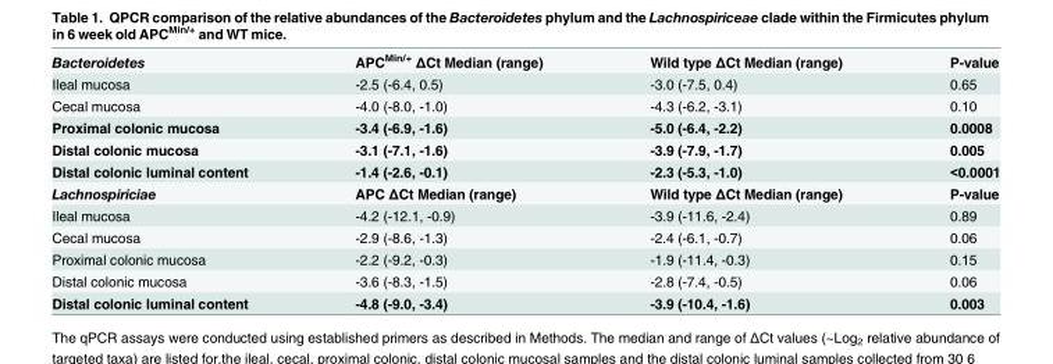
<table><tbody><tr><td>Bacteroidetes</td><td>APC<sup>Min/+</sup> ΔCt Median (range)</td><td>Wild type ΔCt Median (range)</td><td>P-value</td></tr><tr><td>Ileal mucosa</td><td>-2.5 (-6.4, 0.5)</td><td>-3.0 (-7.5, 0.4)</td><td>0.65</td></tr><tr><td>Cecal mucosa</td><td>-4.0 (-8.0, -1.0)</td><td>-4.3 (-6.2, -3.1)</td><td>0.10</td></tr><tr><td>Proximal colonic mucosa</td><td>-3.4 (-6.9, -1.6)</td><td>-5.0 (-6.4, -2.2)</td><td>0.0008</td></tr><tr><td>Distal colonic mucosa</td><td>-3.1 (-7.1, -1.6)</td><td>-3.9 (-7.9, -1.7)</td><td>0.005</td></tr><tr><td>Distal colonic luminal content</td><td>-1.4 (-2.6, -0.1)</td><td>-2.3 (-5.3, -1.0)</td><td>&lt;0.0001</td></tr><tr><td>Lachnospiriciae</td><td>APC ΔCt Median (range)</td><td>Wild type ΔCt Median (range)</td><td>P-value</td></tr><tr><td>Ileal mucosa</td><td>-4.2 (-12.1, -0.9)</td><td>-3.9 (-11.6, -2.4)</td><td>0.89</td></tr><tr><td>Cecal mucosa</td><td>-2.9 (-8.6, -1.3)</td><td>-2.4 (-6.1, -0.7)</td><td>0.06</td></tr><tr><td>Proximal colonic mucosa</td><td>-2.2 (-9.2, -0.3)</td><td>-1.9 (-11.4, -0.3)</td><td>0.15</td></tr><tr><td>Distal colonic mucosa</td><td>-3.6 (-8.3, -1.5)</td><td>-2.8 (-7.4, -0.5)</td><td>0.06</td></tr><tr><td>Distal colonic luminal content</td><td>-4.8 (-9.0, -3.4)</td><td>-3.9 (-10.4, -1.6)</td><td>0.003</td></tr></tbody></table>